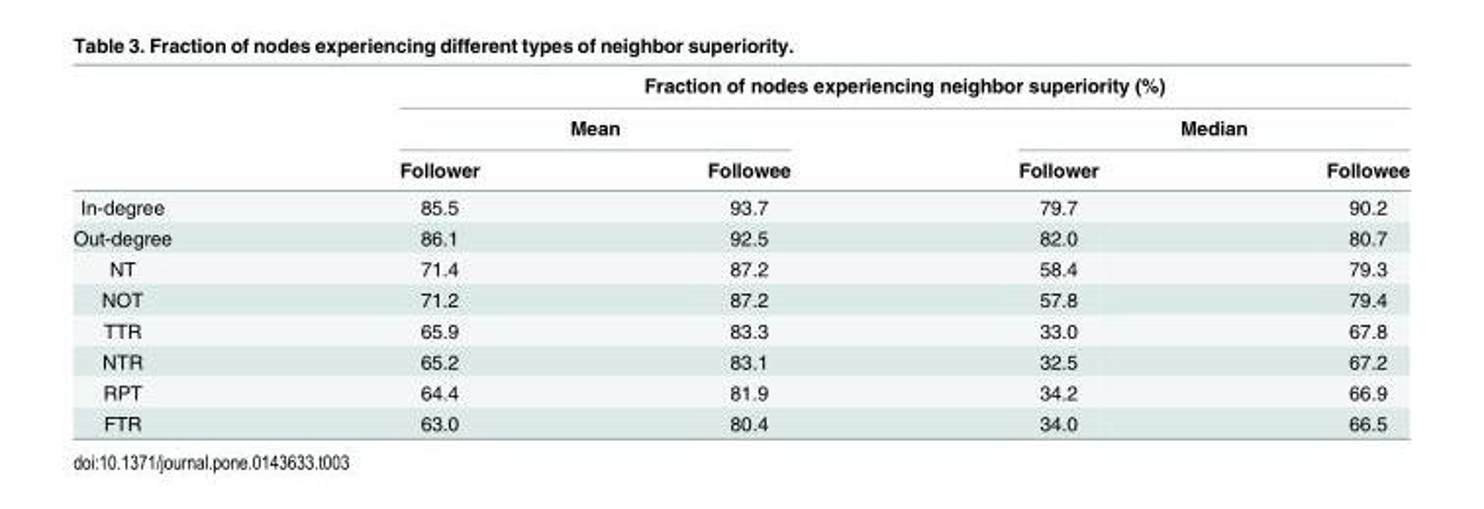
<table><thead><tr><td rowspan="3"></td><td colspan="4">Fraction of nodes experiencing neighbor superiority (%)</td></tr><tr><td colspan="2">Mean</td><td colspan="2">Median</td></tr><tr><td>Follower</td><td>Followee</td><td>Follower</td><td>Followee</td></tr></thead><tbody><tr><td>In-degree</td><td>85.5</td><td>93.7</td><td>79.7</td><td>90.2</td></tr><tr><td>Out-degree</td><td>86.1</td><td>92.5</td><td>82.0</td><td>80.7</td></tr><tr><td>NT</td><td>71.4</td><td>87.2</td><td>58.4</td><td>79.3</td></tr><tr><td>NOT</td><td>71.2</td><td>87.2</td><td>57.8</td><td>79.4</td></tr><tr><td>TTR</td><td>65.9</td><td>83.3</td><td>33.0</td><td>67.8</td></tr><tr><td>NTR</td><td>65.2</td><td>83.1</td><td>32.5</td><td>67.2</td></tr><tr><td>RPT</td><td>64.4</td><td>81.9</td><td>34.2</td><td>66.9</td></tr><tr><td>FTR</td><td>63.0</td><td>80.4</td><td>34.0</td><td>66.5</td></tr></tbody></table>